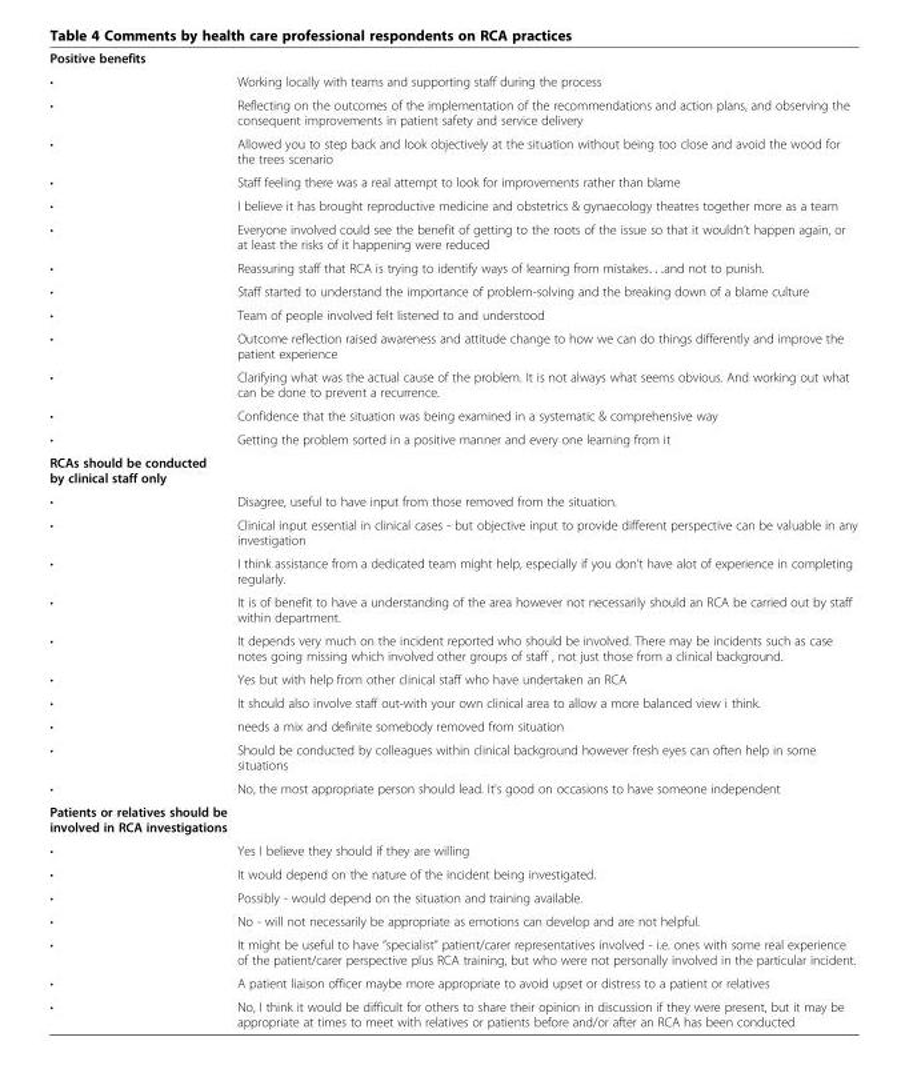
<table><tbody><tr><td colspan="2">Positive benefits</td></tr><tr><td>•</td><td>Working locally with teams and supporting staff during the process</td></tr><tr><td>•</td><td>Reflecting on the outcomes of the implementation of the recommendations and action plans, and observing the consequent improvements in patient safety and service delivery</td></tr><tr><td>•</td><td>Allowed you to step back and look objectively at the situation without being too close and avoid the wood for the trees scenario</td></tr><tr><td>•</td><td>Staff feeling there was a real attempt to look for improvements rather than blame</td></tr><tr><td>•</td><td>I believe it has brought reproductive medicine and obstetrics &amp; gynaecology theatres together more as a team</td></tr><tr><td>•</td><td>Everyone involved could see the benefit of getting to the roots of the issue so that it wouldn’t happen again, or at least the risks of it happening were reduced</td></tr><tr><td>•</td><td>Reassuring staff that RCA is trying to identify ways of learning from mistakes. . .and not to punish.</td></tr><tr><td>•</td><td>Staff started to understand the importance of problem-solving and the breaking down of a blame culture</td></tr><tr><td>•</td><td>Team of people involved felt listened to and understood</td></tr><tr><td>•</td><td>Outcome reflection raised awareness and attitude change to how we can do things differently and improve the patient experience</td></tr><tr><td>•</td><td>Clarifying what was the actual cause of the problem. It is not always what seems obvious. And working out what can be done to prevent a recurrence.</td></tr><tr><td>•</td><td>Confidence that the situation was being examined in a systematic &amp; comprehensive way</td></tr><tr><td>•</td><td>Getting the problem sorted in a positive manner and every one learning from it</td></tr><tr><td colspan="2">RCAs should be conducted by clinical staff only</td></tr><tr><td>•</td><td>Disagree, useful to have input from those removed from the situation.</td></tr><tr><td>•</td><td>Clinical input essential in clinical cases - but objective input to provide different perspective can be valuable in any investigation</td></tr><tr><td>•</td><td>I think assistance from a dedicated team might help, especially if you don’t have alot of experience in completing regularly.</td></tr><tr><td>•</td><td>It is of benefit to have a understanding of the area however not necessarily should an RCA be carried out by staff within department.</td></tr><tr><td>•</td><td>It depends very much on the incident reported who should be involved. There may be incidents such as case notes going missing which involved other groups of staff , not just those from a clinical background.</td></tr><tr><td>•</td><td>Yes but with help from other clinical staff who have undertaken an RCA</td></tr><tr><td>•</td><td>It should also involve staff out-with your own clinical area to allow a more balanced view i think.</td></tr><tr><td>•</td><td>needs a mix and definite somebody removed from situation</td></tr><tr><td>•</td><td>Should be conducted by colleagues within clinical background however fresh eyes can often help in some situations</td></tr><tr><td>•</td><td>No, the most appropriate person should lead. It&#x27;s good on occasions to have someone independent</td></tr><tr><td colspan="2">Patients or relatives should be involved in RCA investigations</td></tr><tr><td>•</td><td>Yes I believe they should if they are willing</td></tr><tr><td>•</td><td>It would depend on the nature of the incident being investigated.</td></tr><tr><td>•</td><td>Possibly - would depend on the situation and training available.</td></tr><tr><td>•</td><td>No - will not necessarily be appropriate as emotions can develop and are not helpful.</td></tr><tr><td>•</td><td>It might be useful to have “specialist” patient/carer representatives involved - i.e. ones with some real experience of the patient/carer perspective plus RCA training, but who were not personally involved in the particular incident.</td></tr><tr><td>•</td><td>A patient liaison officer maybe more appropriate to avoid upset or distress to a patient or relatives</td></tr><tr><td>•</td><td>No, I think it would be difficult for others to share their opinion in discussion if they were present, but it may be appropriate at times to meet with relatives or patients before and/or after an RCA has been conducted</td></tr></tbody></table>